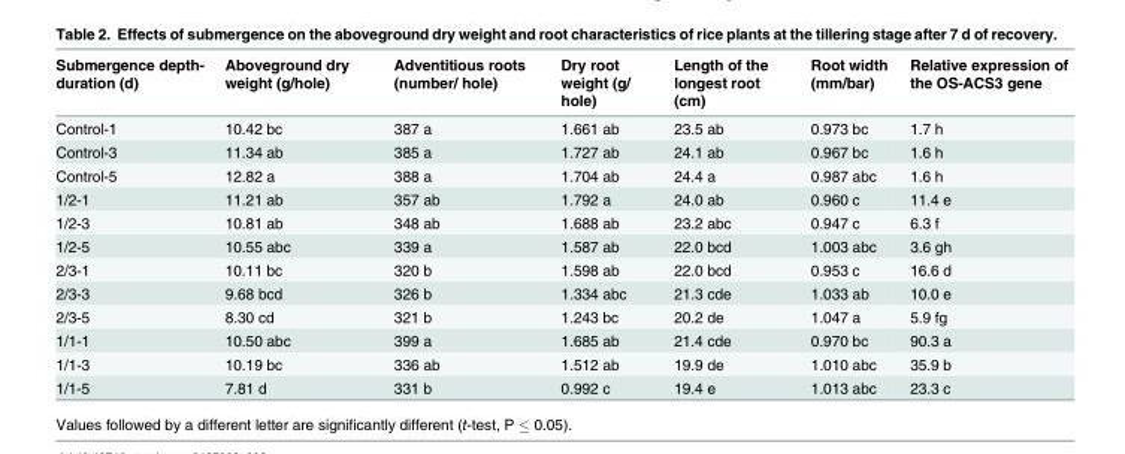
<table><thead><tr><td>Submergence depth- duration (d)</td><td>Aboveground dry weight (g/hole)</td><td>Adventitious roots (number/ hole)</td><td>Dry root weight (g/ hole)</td><td>Length of the longest root (cm)</td><td>Root width (mm/bar)</td><td>Relative expression of the OS-ACS3 gene</td></tr></thead><tbody><tr><td>Control-1</td><td>10.42 bc</td><td>387 a</td><td>1.661 ab</td><td>23.5 ab</td><td>0.973 bc</td><td>1.7 h</td></tr><tr><td>Control-3</td><td>11.34 ab</td><td>385 a</td><td>1.727 ab</td><td>24.1 ab</td><td>0.967 bc</td><td>1.6 h</td></tr><tr><td>Control-5</td><td>12.82 a</td><td>388 a</td><td>1.704 ab</td><td>24.4 a</td><td>0.987 abc</td><td>1.6 h</td></tr><tr><td>1/2-1</td><td>11.21 ab</td><td>357 ab</td><td>1.792 a</td><td>24.0 ab</td><td>0.960 c</td><td>11.4 e</td></tr><tr><td>1/2-3</td><td>10.81 ab</td><td>348 ab</td><td>1.688 ab</td><td>23.2 abc</td><td>0.947 c</td><td>6.3 f</td></tr><tr><td>1/2-5</td><td>10.55 abc</td><td>339 a</td><td>1.587 ab</td><td>22.0 bcd</td><td>1.003 abc</td><td>3.6 gh</td></tr><tr><td>2/3-1</td><td>10.11 bc</td><td>320 b</td><td>1.598 ab</td><td>22.0 bcd</td><td>0.953 c</td><td>16.6 d</td></tr><tr><td>2/3-3</td><td>9.68 bcd</td><td>326 b</td><td>1.334 abc</td><td>21.3 cde</td><td>1.033 ab</td><td>10.0 e</td></tr><tr><td>2/3-5</td><td>8.30 cd</td><td>321 b</td><td>1.243 bc</td><td>20.2 de</td><td>1.047 a</td><td>5.9 fg</td></tr><tr><td>1/1-1</td><td>10.50 abc</td><td>399 a</td><td>1.685 ab</td><td>21.4 cde</td><td>0.970 bc</td><td>90.3 a</td></tr><tr><td>1/1-3</td><td>10.19 bc</td><td>336 ab</td><td>1.512 ab</td><td>19.9 de</td><td>1.010 abc</td><td>35.9 b</td></tr><tr><td>1/1-5</td><td>7.81 d</td><td>331 b</td><td>0.992 c</td><td>19.4 e</td><td>1.013 abc</td><td>23.3 c</td></tr></tbody></table>